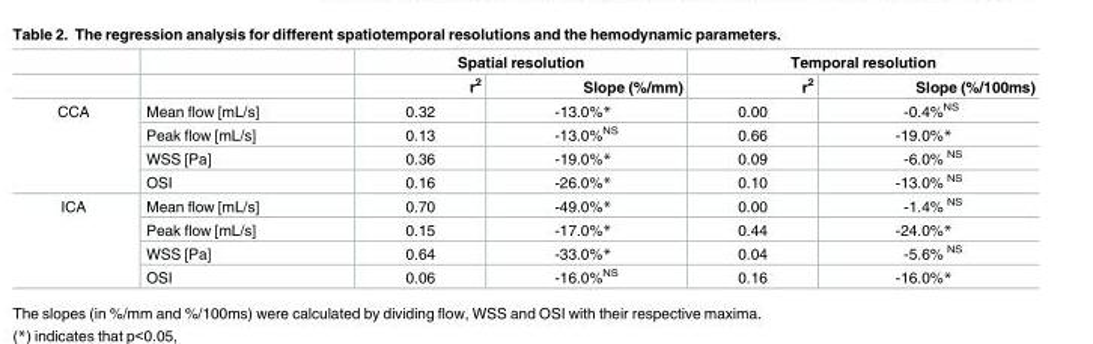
<table><thead><tr><td rowspan="2"></td><td rowspan="2"></td><td colspan="2">Spatial resolution</td><td colspan="2">Temporal resolution</td></tr><tr><td>r<sup>2</sup></td><td>Slope (%/mm)</td><td>r<sup>2</sup></td><td>Slope (%/100ms)</td></tr></thead><tbody><tr><td rowspan="4">CCA</td><td>Mean flow [mL/s]</td><td>0.32</td><td>-13.0%*</td><td>0.00</td><td>-0.4%<sup>NS</sup></td></tr><tr><td>Peak flow [mL/s]</td><td>0.13</td><td>-13.0%<sup>NS</sup></td><td>0.66</td><td>-19.0%*</td></tr><tr><td>WSS [Pa]</td><td>0.36</td><td>-19.0%*</td><td>0.09</td><td>-6.0% <sup>NS</sup></td></tr><tr><td>OSI</td><td>0.16</td><td>-26.0%*</td><td>0.10</td><td>-13.0% <sup>NS</sup></td></tr><tr><td rowspan="4">ICA</td><td>Mean flow [mL/s]</td><td>0.70</td><td>-49.0%*</td><td>0.00</td><td>-1.4% <sup>NS</sup></td></tr><tr><td>Peak flow [mL/s]</td><td>0.15</td><td>-17.0%*</td><td>0.44</td><td>-24.0%*</td></tr><tr><td>WSS [Pa]</td><td>0.64</td><td>-33.0%*</td><td>0.04</td><td>-5.6% <sup>NS</sup></td></tr><tr><td>OSI</td><td>0.06</td><td>-16.0%<sup>NS</sup></td><td>0.16</td><td>-16.0%*</td></tr></tbody></table>